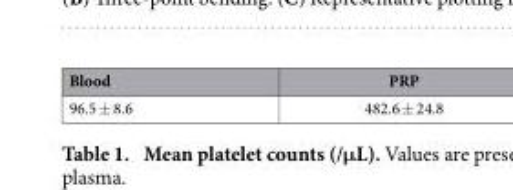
<table><thead><tr><td>Blood</td><td>PRP</td></tr></thead><tbody><tr><td>96.5 ± 8.6</td><td>482.6 ± 24.8</td></tr></tbody></table>